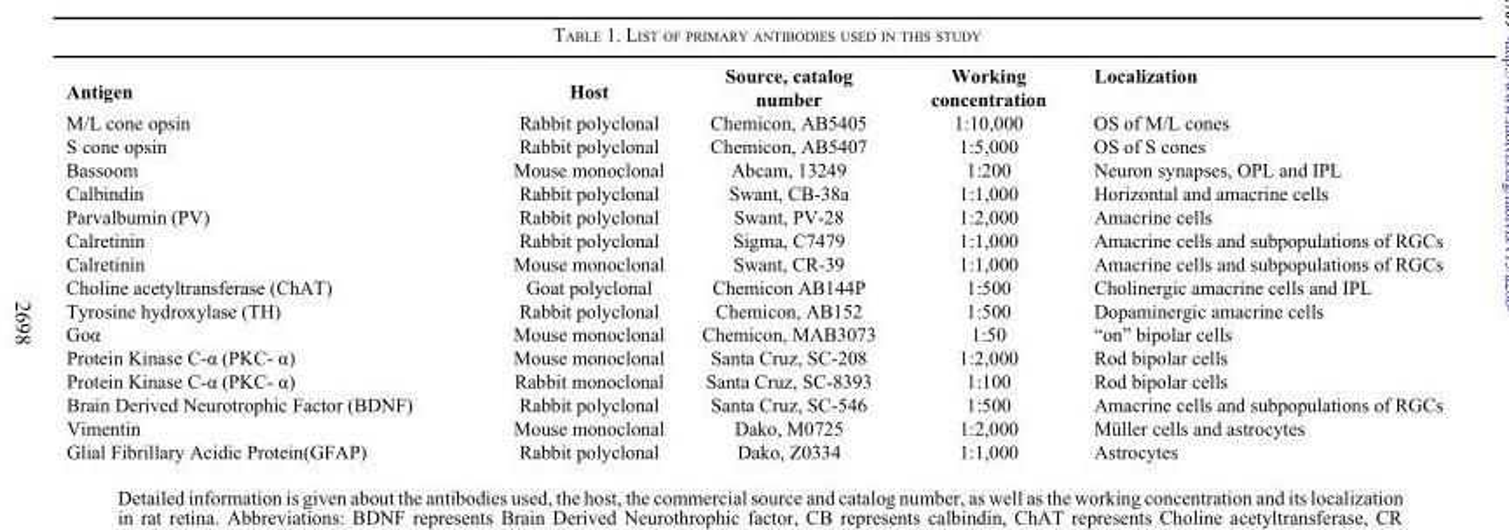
<table><thead><tr><td>Antigen</td><td>Host</td><td>Source, catalog number</td><td>Working concentration</td><td>Localization</td></tr></thead><tbody><tr><td>M/L cone opsin</td><td>Rabbit polyclonal</td><td>Chemicon, AB5405</td><td>1:10,000</td><td>OS of M/L cones</td></tr><tr><td>S cone opsin</td><td>Rabbit polyclonal</td><td>Chemicon, AB5407</td><td>1:5,000</td><td>OS of S cones</td></tr><tr><td>Bassoom</td><td>Mouse monoclonal</td><td>Abcam, 13249</td><td>1:200</td><td>Neuron synapses, OPL and IPL</td></tr><tr><td>Calbindin</td><td>Rabbit polyclonal</td><td>Swant, CB-38a</td><td>1:1,000</td><td>Horizontal and amacrine cells</td></tr><tr><td>Parvalbumin (PV)</td><td>Rabbit polyclonal</td><td>Swant, PV-28</td><td>1:2,000</td><td>Amacrine cells</td></tr><tr><td>Calretinin</td><td>Rabbit polyclonal</td><td>Sigma, C7479</td><td>1:1,000</td><td>Amacrine cells and subpopulations of RGCs</td></tr><tr><td>Calretinin</td><td>Mouse monoclonal</td><td>Swant, CR-39</td><td>1:1,000</td><td>Amacrine cells and subpopulations of RGCs</td></tr><tr><td>Choline acetyltransferase (ChAT)</td><td>Goat polyclonal</td><td>Chemicon AB144P</td><td>1:500</td><td>Cholinergic amacrine cells and IPL</td></tr><tr><td>Tyrosine hydroxylase (TH)</td><td>Rabbit polyclonal</td><td>Chemicon, AB152</td><td>1:500</td><td>Dopaminergic amacrine cells</td></tr><tr><td>Goα</td><td>Mouse monoclonal</td><td>Chemicon, MAB3073</td><td>1:50</td><td>“on” bipolar cells</td></tr><tr><td>Protein Kinase C-α (PKC- α)</td><td>Mouse monoclonal</td><td>Santa Cruz, SC-208</td><td>1:2,000</td><td>Rod bipolar cells</td></tr><tr><td>Protein Kinase C-α (PKC- α)</td><td>Rabbit monoclonal</td><td>Santa Cruz, SC-8393</td><td>1:100</td><td>Rod bipolar cells</td></tr><tr><td>Brain Derived Neurotrophic Factor (BDNF)</td><td>Rabbit polyclonal</td><td>Santa Cruz, SC-546</td><td>1:500</td><td>Amacrine cells and subpopulations of RGCs</td></tr><tr><td>Vimentin</td><td>Mouse monoclonal</td><td>Dako, M0725</td><td>1:2,000</td><td>Müller cells and astrocytes</td></tr><tr><td>Glial Fibrillary Acidic Protein(GFAP)</td><td>Rabbit polyclonal</td><td>Dako, Z0334</td><td>1:1,000</td><td>Astrocytes</td></tr></tbody></table>